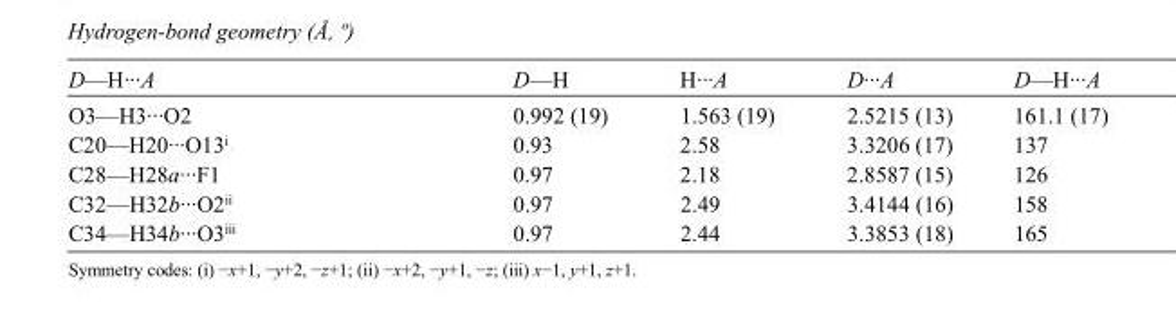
<table><tbody><tr><td>D—H···A</td><td>D—H</td><td>H···A</td><td>D···A</td><td>D—H···A</td></tr><tr><td>O3—H3···O2</td><td>0.992 (19)</td><td>1.563 (19)</td><td>2.5215 (13)</td><td>161.1 (17)</td></tr><tr><td>C20—H20···O13<sup>i</sup></td><td>0.93</td><td>2.58</td><td>3.3206 (17)</td><td>137</td></tr><tr><td>C28—H28a···F1</td><td>0.97</td><td>2.18</td><td>2.8587 (15)</td><td>126</td></tr><tr><td>C32—H32b···O2<sup>ii</sup></td><td>0.97</td><td>2.49</td><td>3.4144 (16)</td><td>158</td></tr><tr><td>C34—H34b···O3<sup>iii</sup></td><td>0.97</td><td>2.44</td><td>3.3853 (18)</td><td>165</td></tr></tbody></table>